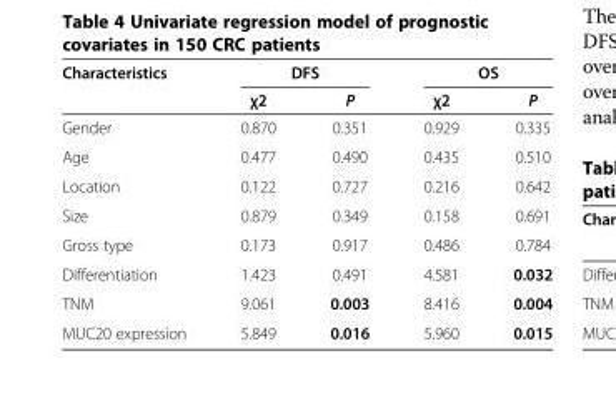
<table><thead><tr><td rowspan="2">Characteristics</td><td colspan="2">DFS</td><td colspan="2">OS</td></tr><tr><td>χ2</td><td>P</td><td>χ2</td><td>P</td></tr></thead><tbody><tr><td>Gender</td><td>0.870</td><td>0.351</td><td>0.929</td><td>0.335</td></tr><tr><td>Age</td><td>0.477</td><td>0.490</td><td>0.435</td><td>0.510</td></tr><tr><td>Location</td><td>0.122</td><td>0.727</td><td>0.216</td><td>0.642</td></tr><tr><td>Size</td><td>0.879</td><td>0.349</td><td>0.158</td><td>0.691</td></tr><tr><td>Gross type</td><td>0.173</td><td>0.917</td><td>0.486</td><td>0.784</td></tr><tr><td>Differentiation</td><td>1.423</td><td>0.491</td><td>4.581</td><td>0.032</td></tr><tr><td>TNM</td><td>9.061</td><td>0.003</td><td>8.416</td><td>0.004</td></tr><tr><td>MUC20 expression</td><td>5.849</td><td>0.016</td><td>5.960</td><td>0.015</td></tr></tbody></table>